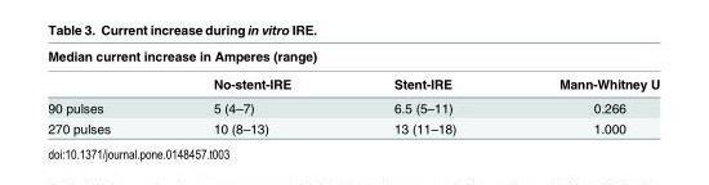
<table><thead><tr><td colspan="4">Median current increase in Amperes (range)</td></tr><tr><td></td><td>No-stent-IRE</td><td>Stent-IRE</td><td>Mann-Whitney U</td></tr></thead><tbody><tr><td>90 pulses</td><td>5 (4–7)</td><td>6.5 (5–11)</td><td>0.266</td></tr><tr><td>270 pulses</td><td>10 (8–13)</td><td>13 (11–18)</td><td>1.000</td></tr></tbody></table>